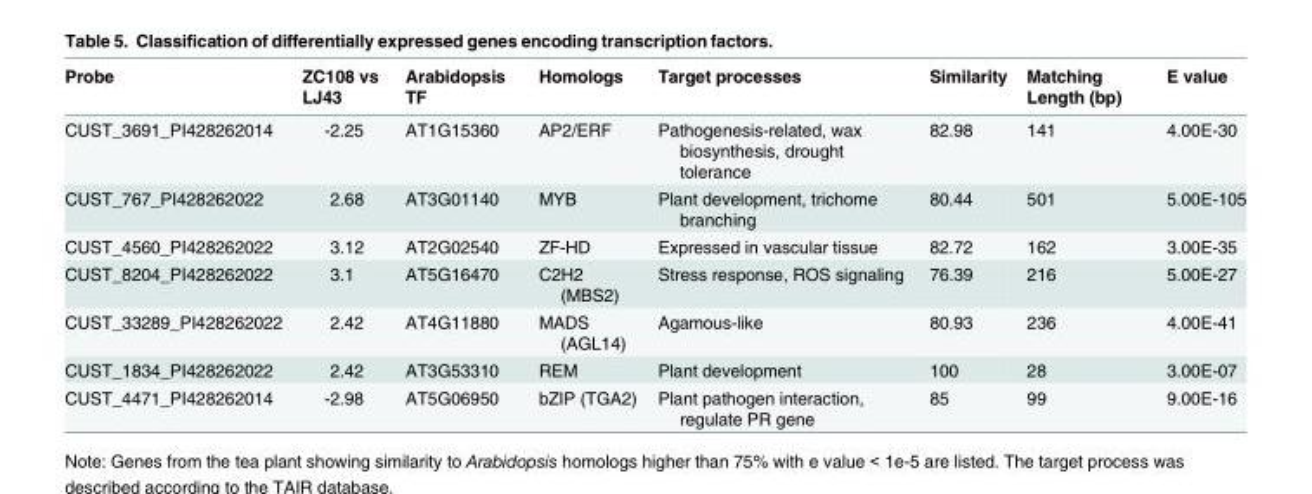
<table><thead><tr><td>Probe</td><td>ZC108 vs LJ43</td><td>Arabidopsis TF</td><td>Homologs</td><td>Target processes</td><td>Similarity</td><td>Matching Length (bp)</td><td>E value</td></tr></thead><tbody><tr><td>CUST_3691_PI428262014</td><td>-2.25</td><td>AT1G15360</td><td>AP2/ERF</td><td>Pathogenesis-related, wax biosynthesis, drought tolerance</td><td>82.98</td><td>141</td><td>4.00E-30</td></tr><tr><td>CUST_767_PI428262022</td><td>2.68</td><td>AT3G01140</td><td>MYB</td><td>Plant development, trichome branching</td><td>80.44</td><td>501</td><td>5.00E-105</td></tr><tr><td>CUST_4560_PI428262022</td><td>3.12</td><td>AT2G02540</td><td>ZF-HD</td><td>Expressed in vascular tissue</td><td>82.72</td><td>162</td><td>3.00E-35</td></tr><tr><td>CUST_8204_PI428262022</td><td>3.1</td><td>AT5G16470</td><td>C2H2 (MBS2)</td><td>Stress response, ROS signaling</td><td>76.39</td><td>216</td><td>5.00E-27</td></tr><tr><td>CUST_33289_PI428262022</td><td>2.42</td><td>AT4G11880</td><td>MADS (AGL14)</td><td>Agamous-like</td><td>80.93</td><td>236</td><td>4.00E-41</td></tr><tr><td>CUST_1834_PI428262022</td><td>2.42</td><td>AT3G53310</td><td>REM</td><td>Plant development</td><td>100</td><td>28</td><td>3.00E-07</td></tr><tr><td>CUST_4471_PI428262014</td><td>-2.98</td><td>AT5G06950</td><td>bZIP (TGA2)</td><td>Plant pathogen interaction, regulate PR gene</td><td>85</td><td>99</td><td>9.00E-16</td></tr></tbody></table>